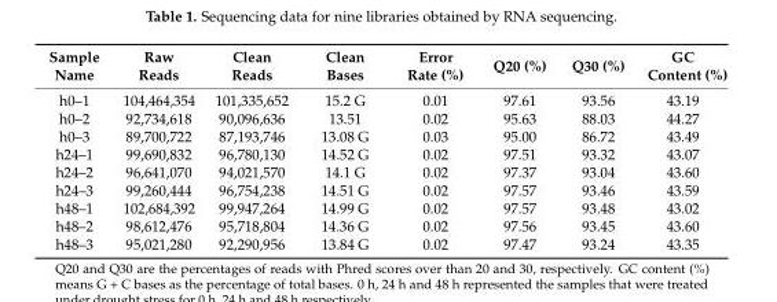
<table><thead><tr><td>Sample Name</td><td>Raw Reads</td><td>Clean Reads</td><td>Clean Bases</td><td>Error Rate (%)</td><td>Q20 (%)</td><td>Q30 (%)</td><td>GC Content (%)</td></tr></thead><tbody><tr><td>h0–1</td><td>104,464,354</td><td>101,335,652</td><td>15.2 G</td><td>0.01</td><td>97.61</td><td>93.56</td><td>43.19</td></tr><tr><td>h0–2</td><td>92,734,618</td><td>90,096,636</td><td>13.51</td><td>0.02</td><td>95.63</td><td>88.03</td><td>44.27</td></tr><tr><td>h0–3</td><td>89,700,722</td><td>87,193,746</td><td>13.08 G</td><td>0.03</td><td>95.00</td><td>86.72</td><td>43.49</td></tr><tr><td>h24–1</td><td>99,690,832</td><td>96,780,130</td><td>14.52 G</td><td>0.02</td><td>97.51</td><td>93.32</td><td>43.07</td></tr><tr><td>h24–2</td><td>96,641,070</td><td>94,021,570</td><td>14.1 G</td><td>0.02</td><td>97.37</td><td>93.04</td><td>43.60</td></tr><tr><td>h24–3</td><td>99,260,444</td><td>96,754,238</td><td>14.51 G</td><td>0.02</td><td>97.57</td><td>93.46</td><td>43.59</td></tr><tr><td>h48–1</td><td>102,684,392</td><td>99,947,264</td><td>14.99 G</td><td>0.02</td><td>97.57</td><td>93.48</td><td>43.02</td></tr><tr><td>h48–2</td><td>98,612,476</td><td>95,718,804</td><td>14.36 G</td><td>0.02</td><td>97.56</td><td>93.45</td><td>43.60</td></tr><tr><td>h48–3</td><td>95,021,280</td><td>92,290,956</td><td>13.84 G</td><td>0.02</td><td>97.47</td><td>93.24</td><td>43.35</td></tr></tbody></table>